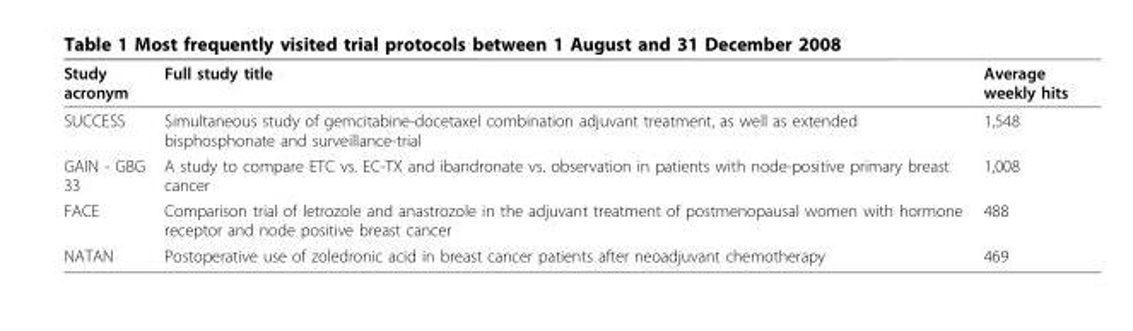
<table><thead><tr><td>Study acronym</td><td>Full study title</td><td>Average weekly hits</td></tr></thead><tbody><tr><td>SUCCESS</td><td>Simultaneous study of gemcitabine-docetaxel combination adjuvant treatment, as well as extended bisphosphonate and surveillance-trial</td><td>1,548</td></tr><tr><td>GAIN - GBG 33</td><td>A study to compare ETC vs. EC-TX and ibandronate vs. observation in patients with node-positive primary breast cancer</td><td>1,008</td></tr><tr><td>FACE</td><td>Comparison trial of letrozole and anastrozole in the adjuvant treatment of postmenopausal women with hormone receptor and node positive breast cancer</td><td>488</td></tr><tr><td>NATAN</td><td>Postoperative use of zoledronic acid in breast cancer patients after neoadjuvant chemotherapy</td><td>469</td></tr></tbody></table>